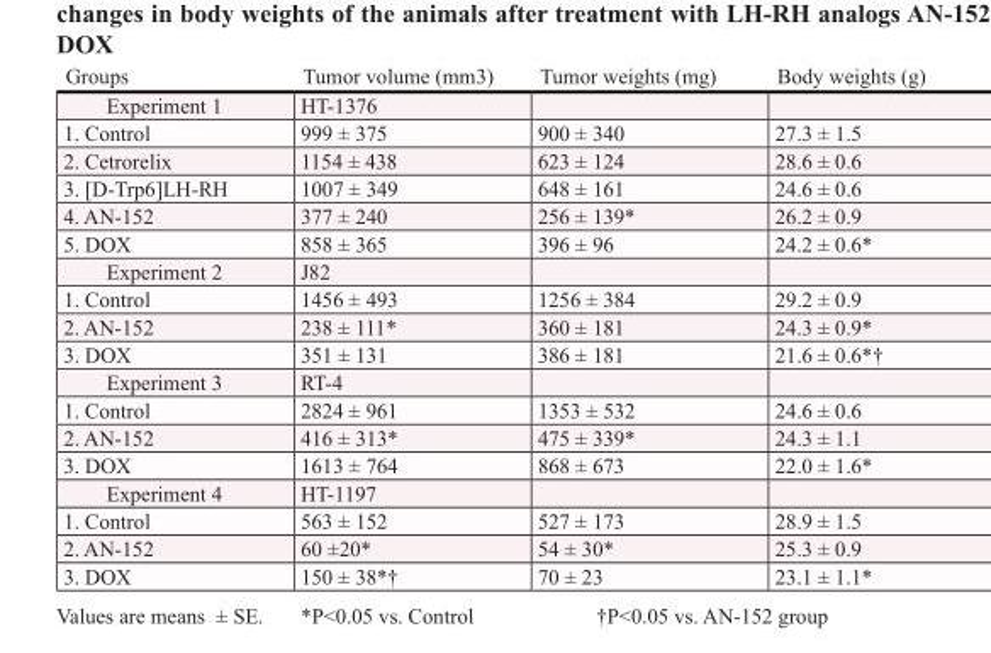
<table><thead><tr><td>Groups</td><td>Tumor volume (mm3)</td><td>Tumor weights (mg)</td><td>Body weights (g)</td></tr></thead><tbody><tr><td>Experiment 1</td><td>HT-1376</td><td></td><td></td></tr><tr><td>1. Control</td><td>999 ± 375</td><td>900 ± 340</td><td>27.3 ± 1.5</td></tr><tr><td>2. Cetrorelix</td><td>1154 ± 438</td><td>623 ± 124</td><td>28.6 ± 0.6</td></tr><tr><td>3. [D-Trp<sup>6</sup>]LH-RH</td><td>1007 ± 349</td><td>648 ± 161</td><td>24.6 ± 0.6</td></tr><tr><td>4. AN-152</td><td>377 ± 240</td><td>256 ± 139*</td><td>26.2 ± 0.9</td></tr><tr><td>5. DOX</td><td>858 ± 365</td><td>396 ± 96</td><td>24.2 ± 0.6*</td></tr><tr><td>Experiment 2</td><td>J82</td><td></td><td></td></tr><tr><td>1. Control</td><td>1456 ± 493</td><td>1256 ± 384</td><td>29.2 ± 0.9</td></tr><tr><td>2. AN-152</td><td>238 ± 111*</td><td>360 ± 181</td><td>24.3 ± 0.9*</td></tr><tr><td>3. DOX</td><td>351 ± 131</td><td>386 ± 181</td><td>21.6 ± 0.6*†</td></tr><tr><td>Experiment 3</td><td>RT-4</td><td></td><td></td></tr><tr><td>1. Control</td><td>2824 ± 961</td><td>1353 ± 532</td><td>24.6 ± 0.6</td></tr><tr><td>2. AN-152</td><td>416 ± 313*</td><td>475 ± 339*</td><td>24.3 ± 1.1</td></tr><tr><td>3. DOX</td><td>1613 ± 764</td><td>868 ± 673</td><td>22.0 ± 1.6*</td></tr><tr><td>Experiment 4</td><td>HT-1197</td><td></td><td></td></tr><tr><td>1. Control</td><td>563 ± 152</td><td>527 ± 173</td><td>28.9 ± 1.5</td></tr><tr><td>2. AN-152</td><td>60 ±20*</td><td>54 ± 30*</td><td>25.3 ± 0.9</td></tr><tr><td>3. DOX</td><td>150 ± 38*†</td><td>70 ± 23</td><td>23.1 ± 1.1*</td></tr></tbody></table>